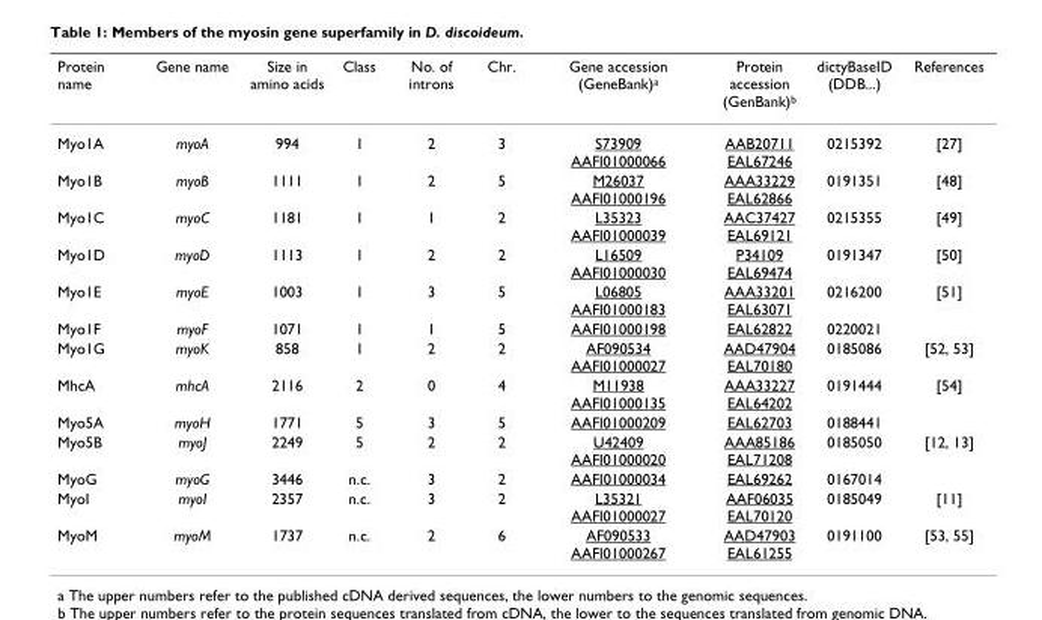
<table><thead><tr><td>Protein name</td><td>Gene name</td><td>Size in amino acids</td><td>Class</td><td>No. of introns</td><td>Chr.</td><td>Gene accession (GeneBank)a</td><td>Protein accession (GenBank)b</td><td>dictyBaseID (DDB...)</td><td>References</td></tr></thead><tbody><tr><td>Myo1A</td><td>myoA</td><td>994</td><td>1</td><td>2</td><td>3</td><td>S73909 AAFI01000066</td><td>AAB20711 EAL67246</td><td>0215392</td><td>[27]</td></tr><tr><td>Myo1B</td><td>myoB</td><td>1111</td><td>1</td><td>2</td><td>5</td><td>M26037 AAFI01000196</td><td>AAA33229 EAL62866</td><td>0191351</td><td>[48]</td></tr><tr><td>Myo1C</td><td>myoC</td><td>1181</td><td>1</td><td>1</td><td>2</td><td>L35323 AAFI01000039</td><td>AAC37427 EAL69121</td><td>0215355</td><td>[49]</td></tr><tr><td>Myo1D</td><td>myoD</td><td>1113</td><td>1</td><td>2</td><td>2</td><td>L16509 AAFI01000030</td><td>P34109 EAL69474</td><td>0191347</td><td>[50]</td></tr><tr><td>Myo1E</td><td>myoE</td><td>1003</td><td>1</td><td>3</td><td>5</td><td>L06805 AAFI01000183</td><td>AAA33201 EAL63071</td><td>0216200</td><td>[51]</td></tr><tr><td>Myo1F</td><td>myoF</td><td>1071</td><td>1</td><td>1</td><td>5</td><td>AAFI01000198</td><td>EAL62822</td><td>0220021</td><td></td></tr><tr><td>Myo1G</td><td>myoK</td><td>858</td><td>1</td><td>2</td><td>2</td><td>AF090534 AAFI01000027</td><td>AAD47904 EAL70180</td><td>0185086</td><td>[52, 53]</td></tr><tr><td>MhcA</td><td>mhcA</td><td>2116</td><td>2</td><td>0</td><td>4</td><td>M11938 AAFI01000135</td><td>AAA33227 EAL64202</td><td>0191444</td><td>[54]</td></tr><tr><td>Myo5A</td><td>myoH</td><td>1771</td><td>5</td><td>3</td><td>5</td><td>AAFI01000209</td><td>EAL62703</td><td>0188441</td><td></td></tr><tr><td>Myo5B</td><td>myoJ</td><td>2249</td><td>5</td><td>2</td><td>2</td><td>U42409 AAFI01000020</td><td>AAA85186 EAL71208</td><td>0185050</td><td>[12, 13]</td></tr><tr><td>MyoG</td><td>myoG</td><td>3446</td><td>n.c.</td><td>3</td><td>2</td><td>AAFI01000034</td><td>EAL69262</td><td>0167014</td><td></td></tr><tr><td>MyoI</td><td>myoI</td><td>2357</td><td>n.c.</td><td>3</td><td>2</td><td>L35321 AAFI01000027</td><td>AAF06035 EAL70120</td><td>0185049</td><td>[11]</td></tr><tr><td>MyoM</td><td>myoM</td><td>1737</td><td>n.c.</td><td>2</td><td>6</td><td>AF090533 AAFI01000267</td><td>AAD47903 EAL61255</td><td>0191100</td><td>[53, 55]</td></tr></tbody></table>